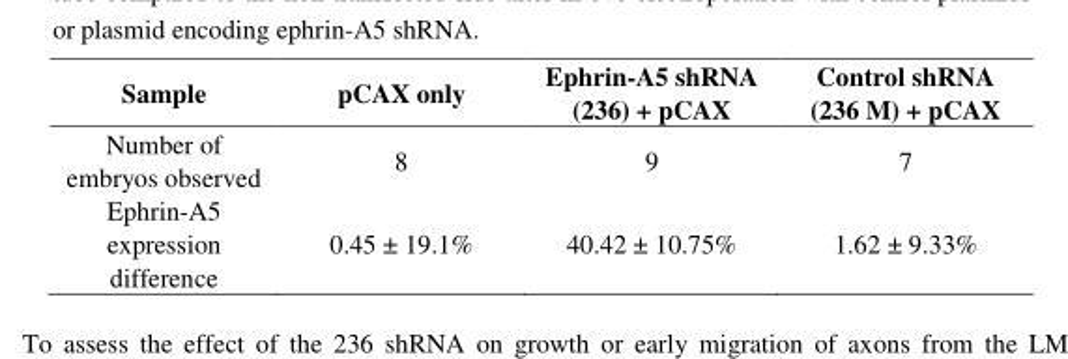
<table><thead><tr><td>Sample</td><td>pCAX only</td><td>Ephrin-A5 shRNA (236) + pCAX</td><td>Control shRNA (236 M) + pCAX</td></tr></thead><tbody><tr><td>Number of embryos observed</td><td>8</td><td>9</td><td>7</td></tr><tr><td>Ephrin-A5 expression difference</td><td>0.45 ± 19.1%</td><td>40.42 ± 10.75%</td><td>1.62 ± 9.33%</td></tr></tbody></table>